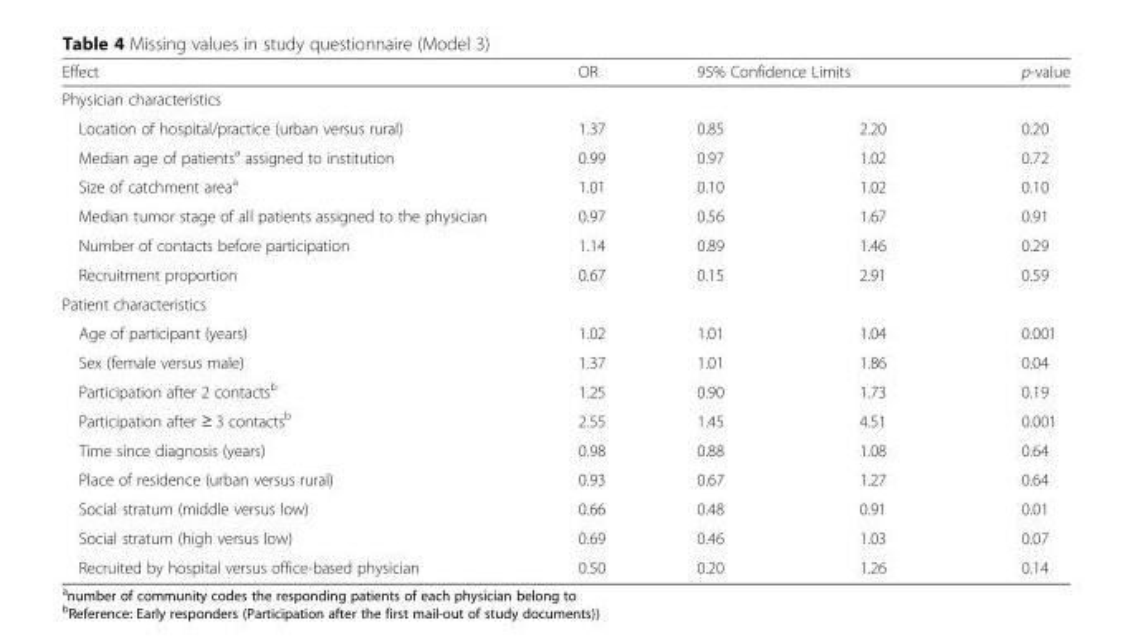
<table><thead><tr><td>Effect</td><td>OR</td><td colspan="2">95% Confidence Limits</td><td>p-value</td></tr><tr><td colspan="5">Physician characteristics</td></tr><tr><td>Location of hospital/practice (urban versus rural)</td><td>1.37</td><td>0.85</td><td>2.20</td><td>0.20</td></tr></thead><tbody><tr><td>Median age of patients<sup>a</sup> assigned to institution</td><td>0.99</td><td>0.97</td><td>1.02</td><td>0.72</td></tr><tr><td>Size of catchment area<sup>a</sup></td><td>1.01</td><td>0.10</td><td>1.02</td><td>0.10</td></tr><tr><td>Median tumor stage of all patients assigned to the physician</td><td>0.97</td><td>0.56</td><td>1.67</td><td>0.91</td></tr><tr><td>Number of contacts before participation</td><td>1.14</td><td>0.89</td><td>1.46</td><td>0.29</td></tr><tr><td>Recruitment proportion</td><td>0.67</td><td>0.15</td><td>2.91</td><td>0.59</td></tr><tr><td colspan="5">Patient characteristics</td></tr><tr><td>Age of participant (years)</td><td>1.02</td><td>1.01</td><td>1.04</td><td>0.001</td></tr><tr><td>Sex (female versus male)</td><td>1.37</td><td>1.01</td><td>1.86</td><td>0.04</td></tr><tr><td>Participation after 2 contacts<sup>b</sup></td><td>1.25</td><td>0.90</td><td>1.73</td><td>0.19</td></tr><tr><td>Participation after ≥ 3 contacts<sup>b</sup></td><td>2.55</td><td>1.45</td><td>4.51</td><td>0.001</td></tr><tr><td>Time since diagnosis (years)</td><td>0.98</td><td>0.88</td><td>1.08</td><td>0.64</td></tr><tr><td>Place of residence (urban versus rural)</td><td>0.93</td><td>0.67</td><td>1.27</td><td>0.64</td></tr><tr><td>Social stratum (middle versus low)</td><td>0.66</td><td>0.48</td><td>0.91</td><td>0.01</td></tr><tr><td>Social stratum (high versus low)</td><td>0.69</td><td>0.46</td><td>1.03</td><td>0.07</td></tr><tr><td>Recruited by hospital versus office-based physician</td><td>0.50</td><td>0.20</td><td>1.26</td><td>0.14</td></tr></tbody></table>